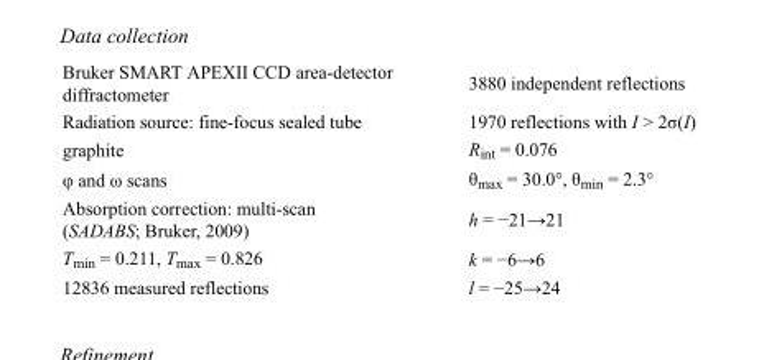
<table><tbody><tr><td>Bruker SMART APEXII CCD area-detector diffractometer</td><td>3880 independent reflections</td></tr><tr><td>Radiation source: fine-focus sealed tube</td><td>1970 reflections with I &gt; 2σ(I)</td></tr><tr><td>graphite</td><td>R<sub>int</sub> = 0.076</td></tr><tr><td>φ and ω scans</td><td>θ<sub>max</sub> = 30.0°, θ<sub>min</sub> = 2.3°</td></tr><tr><td>Absorption correction: multi-scan (SADABS; Bruker, 2009)</td><td>h = −21→21</td></tr><tr><td>T<sub>min</sub> = 0.211, T<sub>max</sub> = 0.826</td><td>k = −6→6</td></tr><tr><td>12836 measured reflections</td><td>l = −25→24</td></tr></tbody></table>